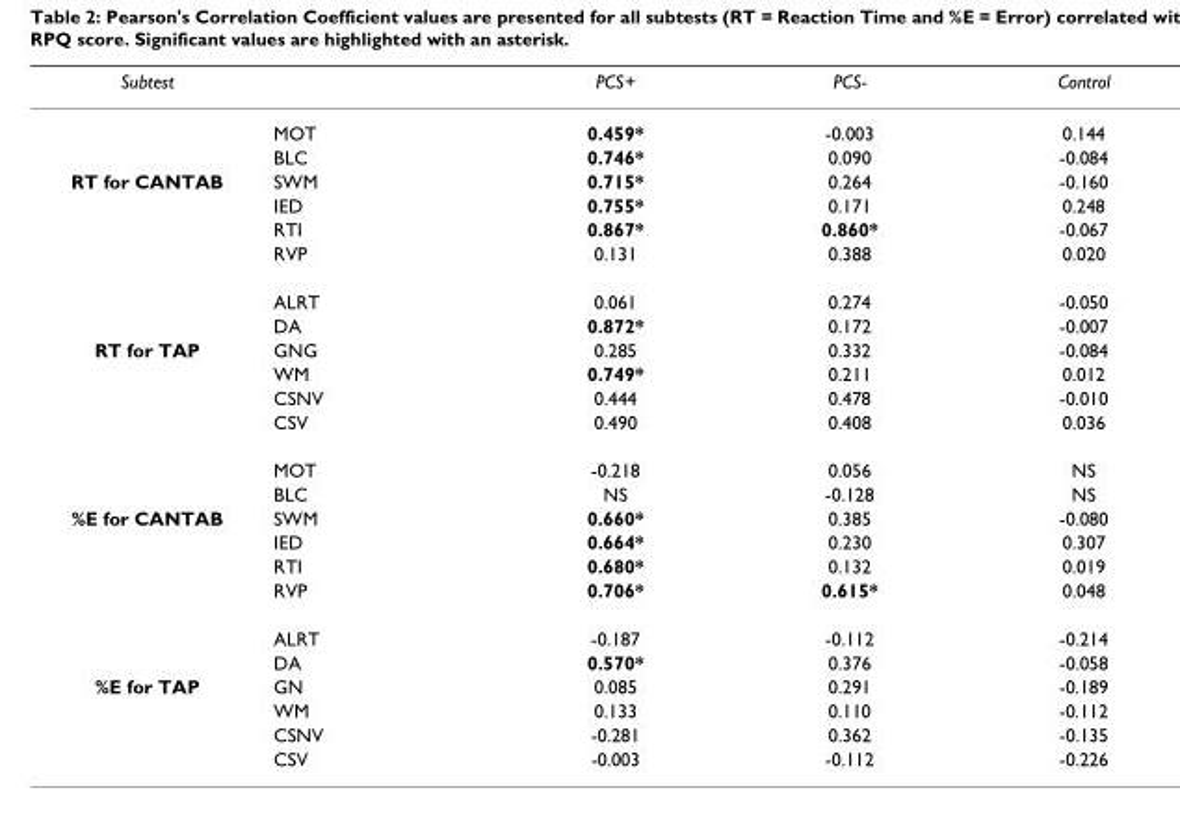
<table><thead><tr><td>Subtest</td><td></td><td>PCS+</td><td>PCS-</td><td>Control</td></tr></thead><tbody><tr><td></td><td>MOT</td><td>0.459*</td><td>-0.003</td><td>0.144</td></tr><tr><td></td><td>BLC</td><td>0.746*</td><td>0.090</td><td>-0.084</td></tr><tr><td rowspan="6">RT for CANTAB</td><td>SWM</td><td>0.715*</td><td>0.264</td><td>-0.160</td></tr><tr><td>IED</td><td>0.755*</td><td>0.171</td><td>0.248</td></tr><tr><td>RTI</td><td>0.867*</td><td>0.860*</td><td>-0.067</td></tr><tr><td>RVP</td><td>0.131</td><td>0.388</td><td>0.020</td></tr><tr><td>ALRT</td><td>0.061</td><td>0.274</td><td>-0.050</td></tr><tr><td>DA</td><td>0.872*</td><td>0.172</td><td>-0.007</td></tr><tr><td rowspan="6">RT for TAP</td><td>GNG</td><td>0.285</td><td>0.332</td><td>-0.084</td></tr><tr><td>WM</td><td>0.749*</td><td>0.211</td><td>0.012</td></tr><tr><td>CSNV</td><td>0.444</td><td>0.478</td><td>-0.010</td></tr><tr><td>CSV</td><td>0.490</td><td>0.408</td><td>0.036</td></tr><tr><td>MOT</td><td>-0.218</td><td>0.056</td><td>NS</td></tr><tr><td>BLC</td><td>NS</td><td>-0.128</td><td>NS</td></tr><tr><td rowspan="6">%E for CANTAB</td><td>SWM</td><td>0.660*</td><td>0.385</td><td>-0.080</td></tr><tr><td>IED</td><td>0.664*</td><td>0.230</td><td>0.307</td></tr><tr><td>RTI</td><td>0.680*</td><td>0.132</td><td>0.019</td></tr><tr><td>RVP</td><td>0.706*</td><td>0.615*</td><td>0.048</td></tr><tr><td>ALRT</td><td>-0.187</td><td>-0.112</td><td>-0.214</td></tr><tr><td>DA</td><td>0.570*</td><td>0.376</td><td>-0.058</td></tr><tr><td rowspan="4">%E for TAP</td><td>GN</td><td>0.085</td><td>0.291</td><td>-0.189</td></tr><tr><td>WM</td><td>0.133</td><td>0.110</td><td>-0.112</td></tr><tr><td>CSNV</td><td>-0.281</td><td>0.362</td><td>-0.135</td></tr><tr><td>CSV</td><td>-0.003</td><td>-0.112</td><td>-0.226</td></tr></tbody></table>